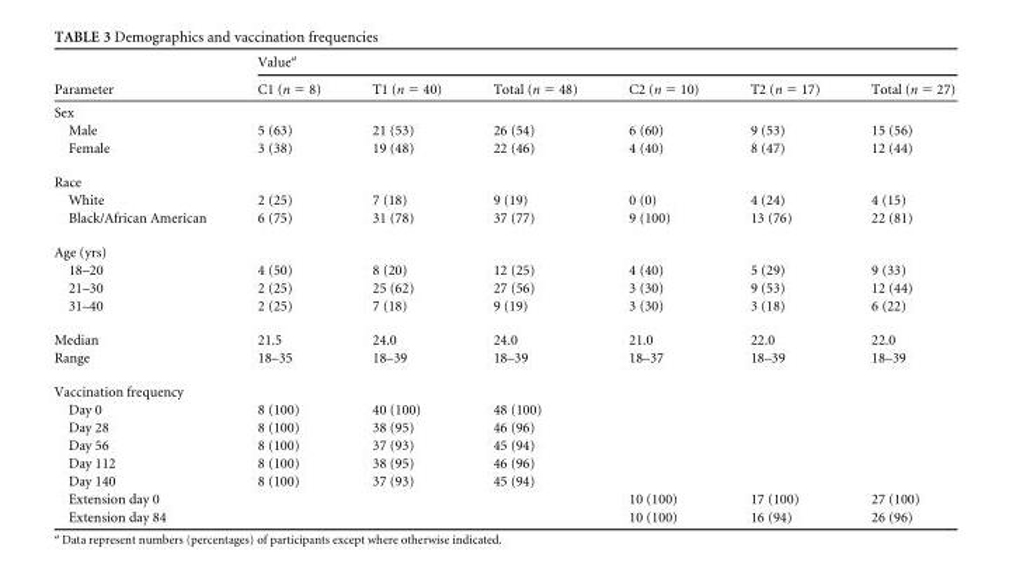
<table><thead><tr><td rowspan="2">Parameter</td><td colspan="6">Value<sup>a</sup></td></tr><tr><td>C1 (n = 8)</td><td>T1 (n = 40)</td><td>Total (n = 48)</td><td>C2 (n = 10)</td><td>T2 (n = 17)</td><td>Total (n = 27)</td></tr></thead><tbody><tr><td colspan="7">Sex</td></tr><tr><td>Male</td><td>5 (63)</td><td>21 (53)</td><td>26 (54)</td><td>6 (60)</td><td>9 (53)</td><td>15 (56)</td></tr><tr><td>Female</td><td>3 (38)</td><td>19 (48)</td><td>22 (46)</td><td>4 (40)</td><td>8 (47)</td><td>12 (44)</td></tr><tr><td colspan="7">Race</td></tr><tr><td>White</td><td>2 (25)</td><td>7 (18)</td><td>9 (19)</td><td>0 (0)</td><td>4 (24)</td><td>4 (15)</td></tr><tr><td>Black/African American</td><td>6 (75)</td><td>31 (78)</td><td>37 (77)</td><td>9 (100)</td><td>13 (76)</td><td>22 (81)</td></tr><tr><td colspan="7">Age (yrs)</td></tr><tr><td>18–20</td><td>4 (50)</td><td>8 (20)</td><td>12 (25)</td><td>4 (40)</td><td>5 (29)</td><td>9 (33)</td></tr><tr><td>21–30</td><td>2 (25)</td><td>25 (62)</td><td>27 (56)</td><td>3 (30)</td><td>9 (53)</td><td>12 (44)</td></tr><tr><td>31–40</td><td>2 (25)</td><td>7 (18)</td><td>9 (19)</td><td>3 (30)</td><td>3 (18)</td><td>6 (22)</td></tr><tr><td>Median</td><td>21.5</td><td>24.0</td><td>24.0</td><td>21.0</td><td>22.0</td><td>22.0</td></tr><tr><td>Range</td><td>18–35</td><td>18–39</td><td>18–39</td><td>18–37</td><td>18–39</td><td>18–39</td></tr><tr><td colspan="7">Vaccination frequency</td></tr><tr><td>Day 0</td><td>8 (100)</td><td>40 (100)</td><td>48 (100)</td><td></td><td></td><td></td></tr><tr><td>Day 28</td><td>8 (100)</td><td>38 (95)</td><td>46 (96)</td><td></td><td></td><td></td></tr><tr><td>Day 56</td><td>8 (100)</td><td>37 (93)</td><td>45 (94)</td><td></td><td></td><td></td></tr><tr><td>Day 112</td><td>8 (100)</td><td>38 (95)</td><td>46 (96)</td><td></td><td></td><td></td></tr><tr><td>Day 140</td><td>8 (100)</td><td>37 (93)</td><td>45 (94)</td><td></td><td></td><td></td></tr><tr><td>Extension day 0</td><td></td><td></td><td></td><td>10 (100)</td><td>17 (100)</td><td>27 (100)</td></tr><tr><td>Extension day 84</td><td></td><td></td><td></td><td>10 (100)</td><td>16 (94)</td><td>26 (96)</td></tr></tbody></table>